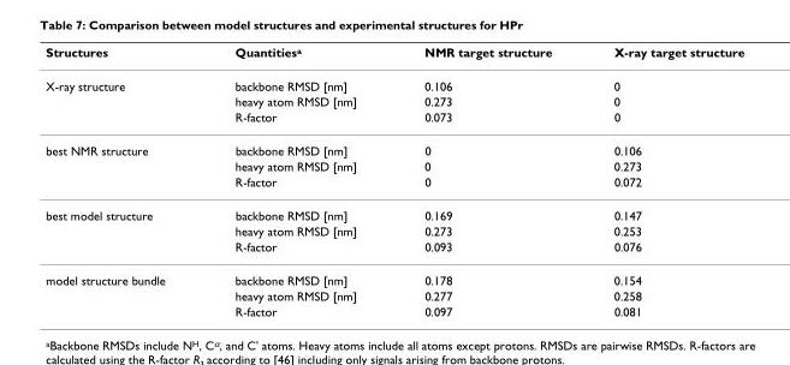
<table><thead><tr><td>Structures</td><td>Quantitiesa</td><td>NMR target structure</td><td>X-ray target structure</td></tr></thead><tbody><tr><td rowspan="3">X-ray structure</td><td>backbone RMSD [nm]</td><td>0.106</td><td>0</td></tr><tr><td>heavy atom RMSD [nm]</td><td>0.273</td><td>0</td></tr><tr><td>R-factor</td><td>0.073</td><td>0</td></tr><tr><td rowspan="3">best NMR structure</td><td>backbone RMSD [nm]</td><td>0</td><td>0.106</td></tr><tr><td>heavy atom RMSD [nm]</td><td>0</td><td>0.273</td></tr><tr><td>R-factor</td><td>0</td><td>0.072</td></tr><tr><td rowspan="3">best model structure</td><td>backbone RMSD [nm]</td><td>0.169</td><td>0.147</td></tr><tr><td>heavy atom RMSD [nm]</td><td>0.273</td><td>0.253</td></tr><tr><td>R-factor</td><td>0.093</td><td>0.076</td></tr><tr><td rowspan="3">model structure bundle</td><td>backbone RMSD [nm]</td><td>0.178</td><td>0.154</td></tr><tr><td>heavy atom RMSD [nm]</td><td>0.277</td><td>0.258</td></tr><tr><td>R-factor</td><td>0.097</td><td>0.081</td></tr></tbody></table>